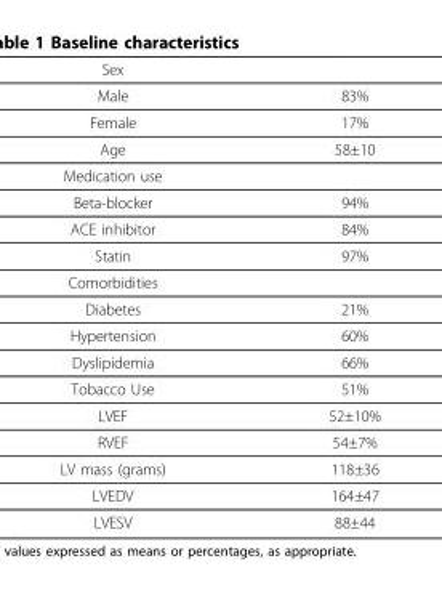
<table><thead><tr><td>Sex</td><td></td></tr></thead><tbody><tr><td>Male</td><td>83%</td></tr><tr><td>Female</td><td>17%</td></tr><tr><td>Age</td><td>58±10</td></tr><tr><td colspan="2">Medication use</td></tr><tr><td>Beta-blocker</td><td>94%</td></tr><tr><td>ACE inhibitor</td><td>84%</td></tr><tr><td>Statin</td><td>97%</td></tr><tr><td colspan="2">Comorbidities</td></tr><tr><td>Diabetes</td><td>21%</td></tr><tr><td>Hypertension</td><td>60%</td></tr><tr><td>Dyslipidemia</td><td>66%</td></tr><tr><td>Tobacco Use</td><td>51%</td></tr><tr><td>LVEF</td><td>52±10%</td></tr><tr><td>RVEF</td><td>54±7%</td></tr><tr><td>LV mass (grams)</td><td>118±36</td></tr><tr><td>LVEDV</td><td>164±47</td></tr><tr><td>LVESV</td><td>88±44</td></tr></tbody></table>